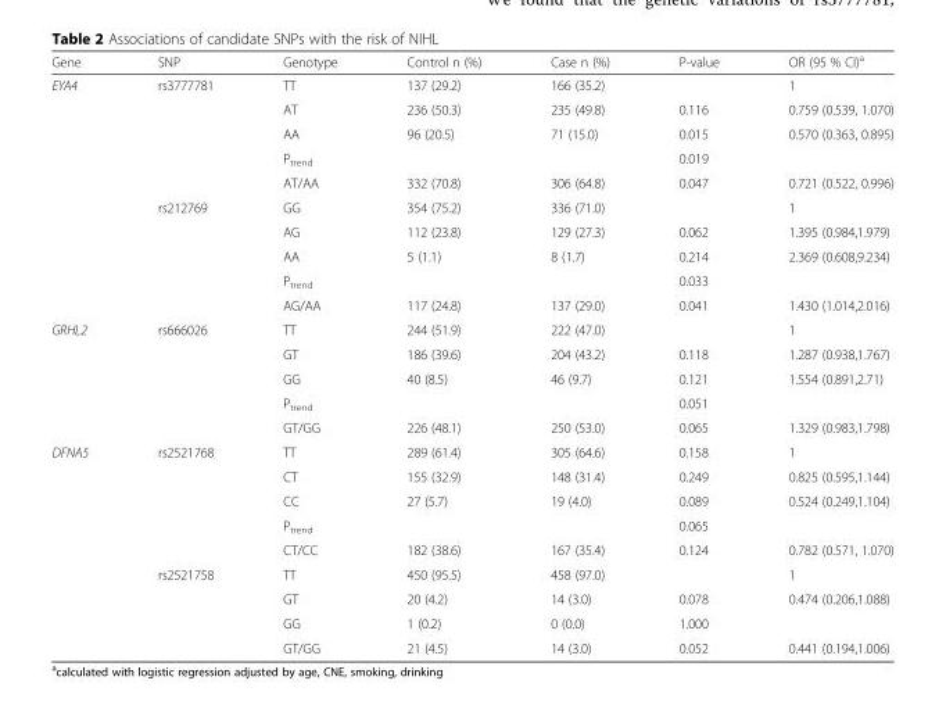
<table><thead><tr><td>Gene</td><td>SNP</td><td>Genotype</td><td>Control n (%)</td><td>Case n (%)</td><td>P-value</td><td>OR (95 % CI)<sup>a</sup></td></tr></thead><tbody><tr><td rowspan="10">EYA4</td><td>rs3777781</td><td>TT</td><td>137 (29.2)</td><td>166 (35.2)</td><td></td><td>1</td></tr><tr><td></td><td>AT</td><td>236 (50.3)</td><td>235 (49.8)</td><td>0.116</td><td>0.759 (0.539, 1.070)</td></tr><tr><td></td><td>AA</td><td>96 (20.5)</td><td>71 (15.0)</td><td>0.015</td><td>0.570 (0.363, 0.895)</td></tr><tr><td></td><td>P<sub>trend</sub></td><td></td><td></td><td>0.019</td><td></td></tr><tr><td></td><td>AT/AA</td><td>332 (70.8)</td><td>306 (64.8)</td><td>0.047</td><td>0.721 (0.522, 0.996)</td></tr><tr><td>rs212769</td><td>GG</td><td>354 (75.2)</td><td>336 (71.0)</td><td></td><td>1</td></tr><tr><td></td><td>AG</td><td>112 (23.8)</td><td>129 (27.3)</td><td>0.062</td><td>1.395 (0.984,1.979)</td></tr><tr><td></td><td>AA</td><td>5 (1.1)</td><td>8 (1.7)</td><td>0.214</td><td>2.369 (0.608,9.234)</td></tr><tr><td></td><td>P<sub>trend</sub></td><td></td><td></td><td>0.033</td><td></td></tr><tr><td></td><td>AG/AA</td><td>117 (24.8)</td><td>137 (29.0)</td><td>0.041</td><td>1.430 (1.014,2.016)</td></tr><tr><td rowspan="5">GRHL2</td><td>rs666026</td><td>TT</td><td>244 (51.9)</td><td>222 (47.0)</td><td></td><td>1</td></tr><tr><td></td><td>GT</td><td>186 (39.6)</td><td>204 (43.2)</td><td>0.118</td><td>1.287 (0.938,1.767)</td></tr><tr><td></td><td>GG</td><td>40 (8.5)</td><td>46 (9.7)</td><td>0.121</td><td>1.554 (0.891,2.71)</td></tr><tr><td></td><td>P<sub>trend</sub></td><td></td><td></td><td>0.051</td><td></td></tr><tr><td></td><td>GT/GG</td><td>226 (48.1)</td><td>250 (53.0)</td><td>0.065</td><td>1.329 (0.983,1.798)</td></tr><tr><td rowspan="9">DFNA5</td><td>rs2521768</td><td>TT</td><td>289 (61.4)</td><td>305 (64.6)</td><td>0.158</td><td>1</td></tr><tr><td></td><td>CT</td><td>155 (32.9)</td><td>148 (31.4)</td><td>0.249</td><td>0.825 (0.595,1.144)</td></tr><tr><td></td><td>CC</td><td>27 (5.7)</td><td>19 (4.0)</td><td>0.089</td><td>0.524 (0.249,1.104)</td></tr><tr><td></td><td>P<sub>trend</sub></td><td></td><td></td><td>0.065</td><td></td></tr><tr><td></td><td>CT/CC</td><td>182 (38.6)</td><td>167 (35.4)</td><td>0.124</td><td>0.782 (0.571, 1.070)</td></tr><tr><td>rs2521758</td><td>TT</td><td>450 (95.5)</td><td>458 (97.0)</td><td></td><td>1</td></tr><tr><td></td><td>GT</td><td>20 (4.2)</td><td>14 (3.0)</td><td>0.078</td><td>0.474 (0.206,1.088)</td></tr><tr><td></td><td>GG</td><td>1 (0.2)</td><td>0 (0.0)</td><td>1.000</td><td></td></tr><tr><td></td><td>GT/GG</td><td>21 (4.5)</td><td>14 (3.0)</td><td>0.052</td><td>0.441 (0.194,1.006)</td></tr></tbody></table>